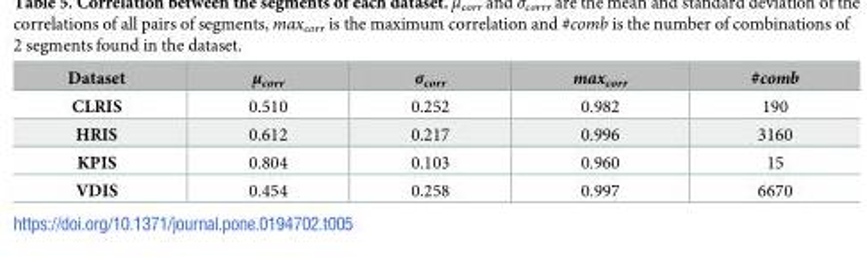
<table><thead><tr><td>Dataset</td><td>μ<sub>corr</sub></td><td>σ<sub>corr</sub></td><td>max<sub>corr</sub></td><td>#comb</td></tr></thead><tbody><tr><td>CLRIS</td><td>0.510</td><td>0.252</td><td>0.982</td><td>190</td></tr><tr><td>HRIS</td><td>0.612</td><td>0.217</td><td>0.996</td><td>3160</td></tr><tr><td>KPIS</td><td>0.804</td><td>0.103</td><td>0.960</td><td>15</td></tr><tr><td>VDIS</td><td>0.454</td><td>0.258</td><td>0.997</td><td>6670</td></tr></tbody></table>